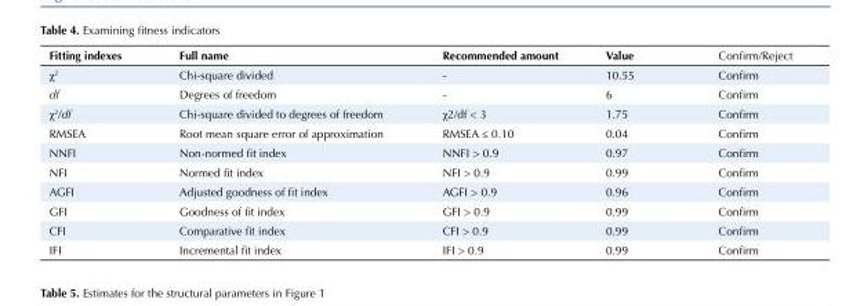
<table><tbody><tr><td>Fitting indexes</td><td>Full name</td><td>Recommended amount</td><td>Value</td><td>Confirm/Reject</td></tr><tr><td>χ<sup>2</sup></td><td>Chi-square divided</td><td>-</td><td>10.55</td><td>Confirm</td></tr><tr><td>df</td><td>Degrees of freedom</td><td>-</td><td>6</td><td>Confirm</td></tr><tr><td>χ<sup>2</sup>/df</td><td>Chi-square divided to degrees of freedom</td><td>χ2/df &lt; 3</td><td>1.75</td><td>Confirm</td></tr><tr><td>RMSEA</td><td>Root mean square error of approximation</td><td>RMSEA ≤ 0.10</td><td>0.04</td><td>Confirm</td></tr><tr><td>NNFI</td><td>Non-normed fit index</td><td>NNFI &gt; 0.9</td><td>0.97</td><td>Confirm</td></tr><tr><td>NFI</td><td>Normed fit index</td><td>NFI &gt; 0.9</td><td>0.99</td><td>Confirm</td></tr><tr><td>AGFI</td><td>Adjusted goodness of fit index</td><td>AGFI &gt; 0.9</td><td>0.96</td><td>Confirm</td></tr><tr><td>GFI</td><td>Goodness of fit index</td><td>GFI &gt; 0.9</td><td>0.99</td><td>Confirm</td></tr><tr><td>CFI</td><td>Comparative fit index</td><td>CFI &gt; 0.9</td><td>0.99</td><td>Confirm</td></tr><tr><td>IFI</td><td>Incremental fit index</td><td>IFI &gt; 0.9</td><td>0.99</td><td>Confirm</td></tr></tbody></table>